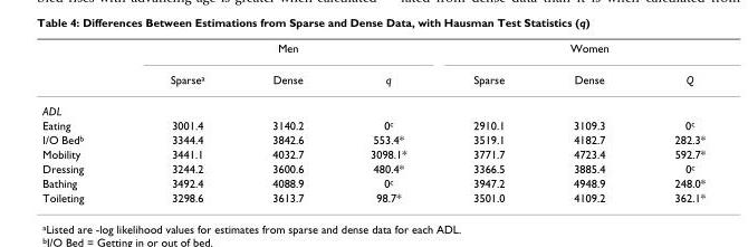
<table><thead><tr><td rowspan="2"></td><td colspan="3">Men</td><td colspan="3">Women</td></tr><tr><td>Sparse<sup>a</sup></td><td>Dense</td><td>q</td><td>Sparse</td><td>Dense</td><td>Q</td></tr></thead><tbody><tr><td colspan="7">ADL</td></tr><tr><td>Eating</td><td>3001.4</td><td>3140.2</td><td>0<sup>c</sup></td><td>2910.1</td><td>3109.3</td><td>0<sup>c</sup></td></tr><tr><td>I/O Bed<sup>b</sup></td><td>3344.4</td><td>3842.6</td><td>553.4*</td><td>3519.1</td><td>4182.7</td><td>282.3*</td></tr><tr><td>Mobility</td><td>3441.1</td><td>4032.7</td><td>3098.1*</td><td>3771.7</td><td>4723.4</td><td>592.7*</td></tr><tr><td>Dressing</td><td>3244.2</td><td>3600.6</td><td>480.4*</td><td>3366.5</td><td>3885.4</td><td>0<sup>c</sup></td></tr><tr><td>Bathing</td><td>3492.4</td><td>4088.9</td><td>0<sup>c</sup></td><td>3947.2</td><td>4948.9</td><td>248.0*</td></tr><tr><td>Toileting</td><td>3298.6</td><td>3613.7</td><td>98.7*</td><td>3501.0</td><td>4109.2</td><td>362.1*</td></tr></tbody></table>